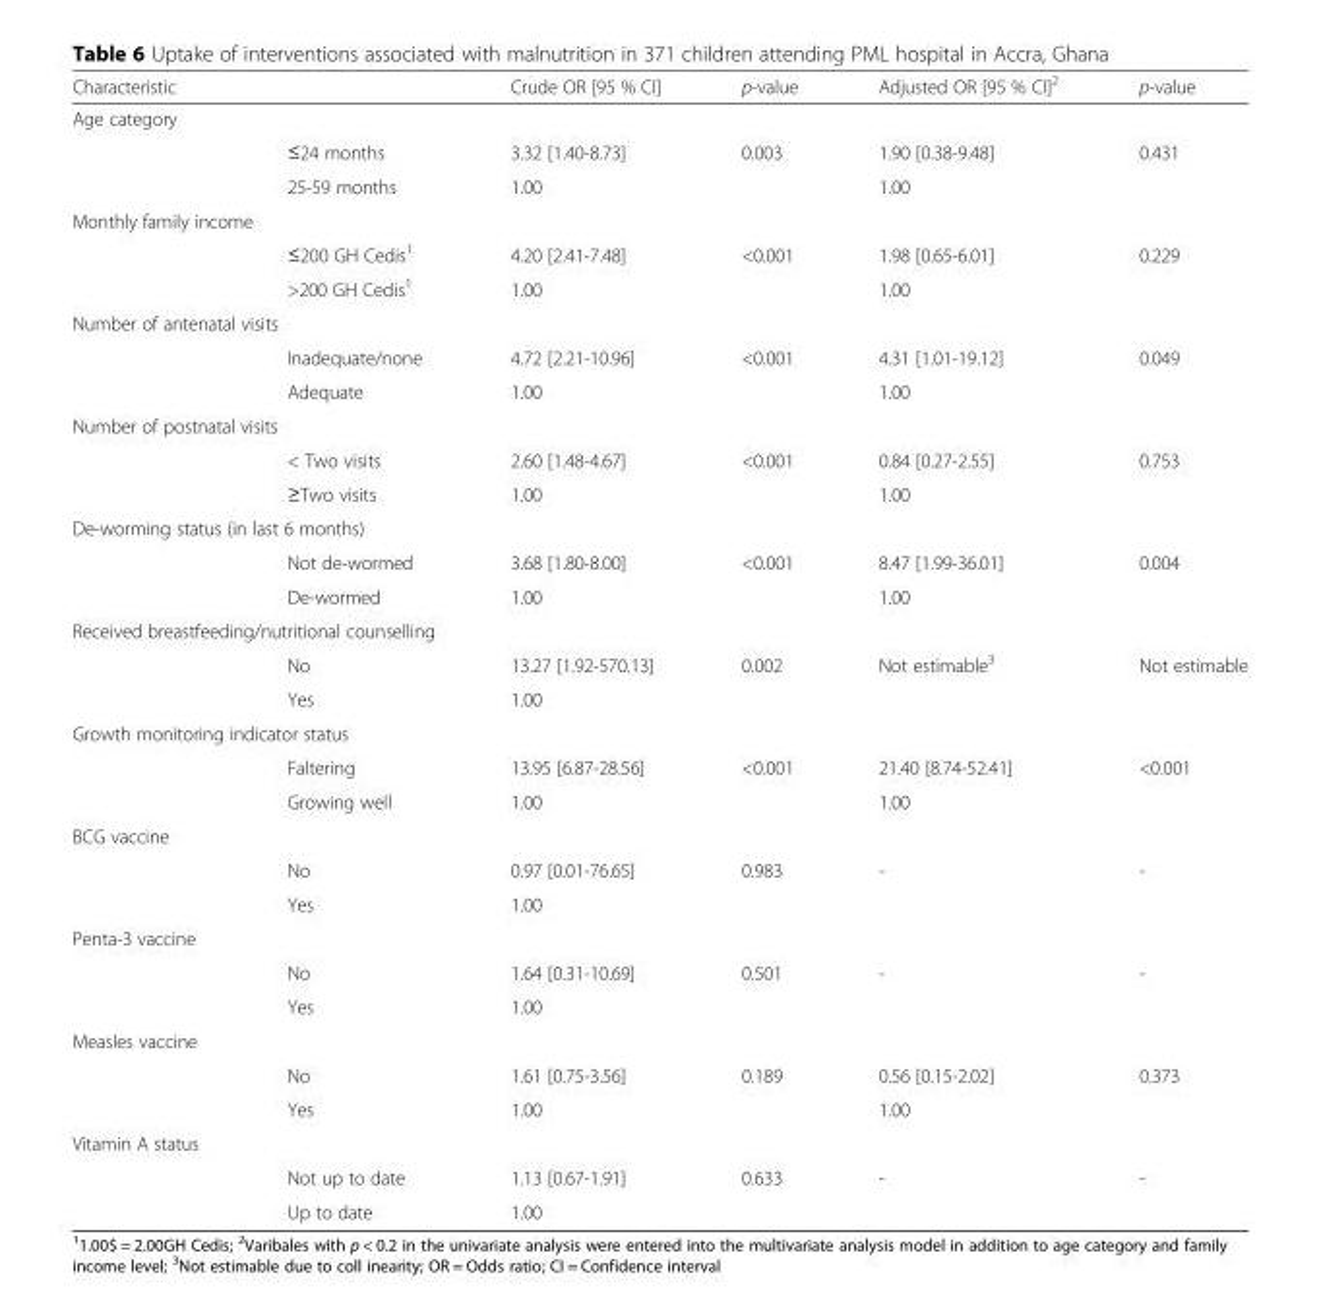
<table><thead><tr><td>Characteristic</td><td></td><td>Crude OR [95 % CI]</td><td>p-value</td><td>Adjusted OR [95 % CI]<sup>2</sup></td><td>p-value</td></tr></thead><tbody><tr><td colspan="6">Age category</td></tr><tr><td></td><td>≤24 months</td><td>3.32 [1.40-8.73]</td><td>0.003</td><td>1.90 [0.38-9.48]</td><td>0.431</td></tr><tr><td></td><td>25-59 months</td><td>1.00</td><td></td><td>1.00</td><td></td></tr><tr><td colspan="6">Monthly family income</td></tr><tr><td></td><td>≤200 GH Cedis<sup>1</sup></td><td>4.20 [2.41-7.48]</td><td>&lt;0.001</td><td>1.98 [0.65-6.01]</td><td>0.229</td></tr><tr><td></td><td>&gt;200 GH Cedis<sup>1</sup></td><td>1.00</td><td></td><td>1.00</td><td></td></tr><tr><td colspan="6">Number of antenatal visits</td></tr><tr><td></td><td>Inadequate/none</td><td>4.72 [2.21-10.96]</td><td>&lt;0.001</td><td>4.31 [1.01-19.12]</td><td>0.049</td></tr><tr><td></td><td>Adequate</td><td>1.00</td><td></td><td>1.00</td><td></td></tr><tr><td colspan="6">Number of postnatal visits</td></tr><tr><td></td><td>&lt; Two visits</td><td>2.60 [1.48-4.67]</td><td>&lt;0.001</td><td>0.84 [0.27-2.55]</td><td>0.753</td></tr><tr><td></td><td>≥Two visits</td><td>1.00</td><td></td><td>1.00</td><td></td></tr><tr><td colspan="6">De-worming status (in last 6 months)</td></tr><tr><td></td><td>Not de-wormed</td><td>3.68 [1.80-8.00]</td><td>&lt;0.001</td><td>8.47 [1.99-36.01]</td><td>0.004</td></tr><tr><td></td><td>De-wormed</td><td>1.00</td><td></td><td>1.00</td><td></td></tr><tr><td colspan="6">Received breastfeeding/nutritional counselling</td></tr><tr><td></td><td>No</td><td>13.27 [1.92-570.13]</td><td>0.002</td><td>Not estimable<sup>3</sup></td><td>Not estimable</td></tr><tr><td></td><td>Yes</td><td>1.00</td><td></td><td></td><td></td></tr><tr><td colspan="6">Growth monitoring indicator status</td></tr><tr><td></td><td>Faltering</td><td>13.95 [6.87-28.56]</td><td>&lt;0.001</td><td>21.40 [8.74-52.41]</td><td>&lt;0.001</td></tr><tr><td></td><td>Growing well</td><td>1.00</td><td></td><td>1.00</td><td></td></tr><tr><td colspan="6">BCG vaccine</td></tr><tr><td></td><td>No</td><td>0.97 [0.01-76.65]</td><td>0.983</td><td>-</td><td>-</td></tr><tr><td></td><td>Yes</td><td>1.00</td><td></td><td></td><td></td></tr><tr><td colspan="6">Penta-3 vaccine</td></tr><tr><td></td><td>No</td><td>1.64 [0.31-10.69]</td><td>0.501</td><td>-</td><td>-</td></tr><tr><td></td><td>Yes</td><td>1.00</td><td></td><td></td><td></td></tr><tr><td colspan="6">Measles vaccine</td></tr><tr><td></td><td>No</td><td>1.61 [0.75-3.56]</td><td>0.189</td><td>0.56 [0.15-2.02]</td><td>0.373</td></tr><tr><td></td><td>Yes</td><td>1.00</td><td></td><td>1.00</td><td></td></tr><tr><td colspan="6">Vitamin A status</td></tr><tr><td></td><td>Not up to date</td><td>1.13 [0.67-1.91]</td><td>0.633</td><td>-</td><td>-</td></tr><tr><td></td><td>Up to date</td><td>1.00</td><td></td><td></td><td></td></tr></tbody></table>